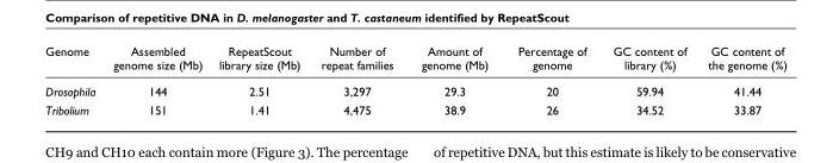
<table><thead><tr><td>Genome</td><td>Assembled genome size (Mb)</td><td>RepeatScout library size (Mb)</td><td>Number of repeat families</td><td>Amount of genome (Mb)</td><td>Percentage of genome</td><td>GC content of library (%)</td><td>GC content of the genome (%)</td></tr></thead><tbody><tr><td>Drosophila</td><td>144</td><td>2.51</td><td>3,297</td><td>29.3</td><td>20</td><td>59.94</td><td>41.44</td></tr><tr><td>Tribolium</td><td>151</td><td>1.41</td><td>4,475</td><td>38.9</td><td>26</td><td>34.52</td><td>33.87</td></tr></tbody></table>